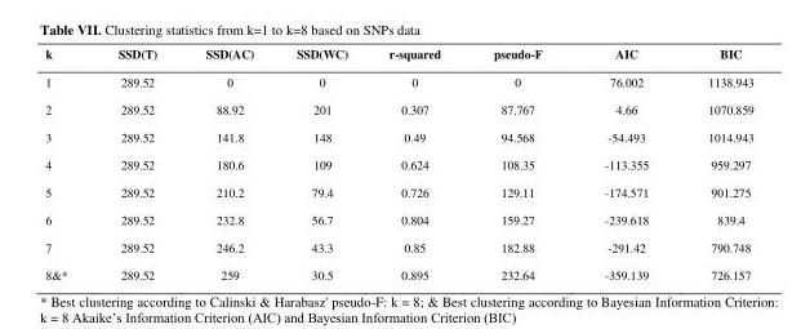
<table><thead><tr><td>k</td><td>SSD(T)</td><td>SSD(AC)</td><td>SSD(WC)</td><td>r-squared</td><td>pseudo-F</td><td>AIC</td><td>BIC</td></tr></thead><tbody><tr><td>1</td><td>289.52</td><td>0</td><td>0</td><td>0</td><td>0</td><td>76.002</td><td>1138.943</td></tr><tr><td>2</td><td>289.52</td><td>88.92</td><td>201</td><td>0.307</td><td>87.767</td><td>4.66</td><td>1070.859</td></tr><tr><td>3</td><td>289.52</td><td>141.8</td><td>148</td><td>0.49</td><td>94.568</td><td>-54.493</td><td>1014.943</td></tr><tr><td>4</td><td>289.52</td><td>180.6</td><td>109</td><td>0.624</td><td>108.35</td><td>-113.355</td><td>959.297</td></tr><tr><td>5</td><td>289.52</td><td>210.2</td><td>79.4</td><td>0.726</td><td>129.11</td><td>-174.571</td><td>901.275</td></tr><tr><td>6</td><td>289.52</td><td>232.8</td><td>56.7</td><td>0.804</td><td>159.27</td><td>-239.618</td><td>839.4</td></tr><tr><td>7</td><td>289.52</td><td>246.2</td><td>43.3</td><td>0.85</td><td>182.88</td><td>-291.42</td><td>790.748</td></tr><tr><td>8&amp;*</td><td>289.52</td><td>259</td><td>30.5</td><td>0.895</td><td>232.64</td><td>-359.139</td><td>726.157</td></tr></tbody></table>